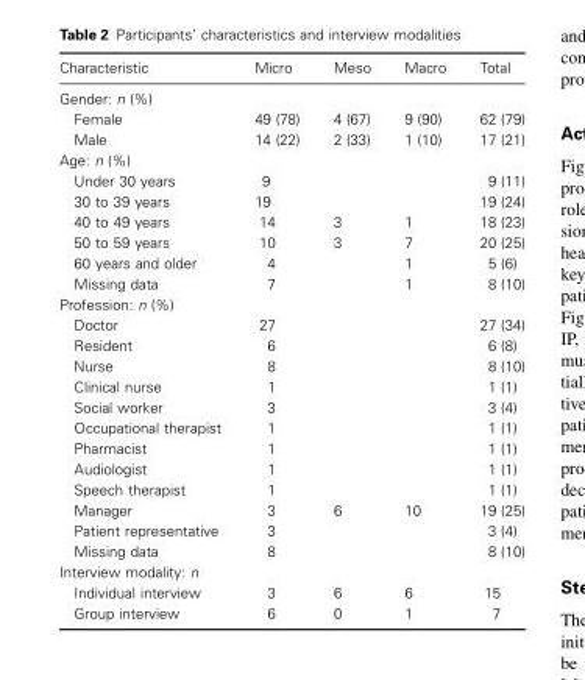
<table><thead><tr><td>Characteristic</td><td>Micro</td><td>Meso</td><td>Macro</td><td>Total</td></tr></thead><tbody><tr><td colspan="5">Gender: n (%)</td></tr><tr><td>Female</td><td>49 (78)</td><td>4 (67)</td><td>9 (90)</td><td>62 (79)</td></tr><tr><td>Male</td><td>14 (22)</td><td>2 (33)</td><td>1 (10)</td><td>17 (21)</td></tr><tr><td colspan="5">Age: n (%)</td></tr><tr><td>Under 30 years</td><td>9</td><td></td><td></td><td>9 (11)</td></tr><tr><td>30 to 39 years</td><td>19</td><td></td><td></td><td>19 (24)</td></tr><tr><td>40 to 49 years</td><td>14</td><td>3</td><td>1</td><td>18 (23)</td></tr><tr><td>50 to 59 years</td><td>10</td><td>3</td><td>7</td><td>20 (25)</td></tr><tr><td>60 years and older</td><td>4</td><td></td><td>1</td><td>5 (6)</td></tr><tr><td>Missing data</td><td>7</td><td></td><td>1</td><td>8 (10)</td></tr><tr><td colspan="5">Profession: n (%)</td></tr><tr><td>Doctor</td><td>27</td><td></td><td></td><td>27 (34)</td></tr><tr><td>Resident</td><td>6</td><td></td><td></td><td>6 (8)</td></tr><tr><td>Nurse</td><td>8</td><td></td><td></td><td>8 (10)</td></tr><tr><td>Clinical nurse</td><td>1</td><td></td><td></td><td>1 (1)</td></tr><tr><td>Social worker</td><td>3</td><td></td><td></td><td>3 (4)</td></tr><tr><td>Occupational therapist</td><td>1</td><td></td><td></td><td>1 (1)</td></tr><tr><td>Pharmacist</td><td>1</td><td></td><td></td><td>1 (1)</td></tr><tr><td>Audiologist</td><td>1</td><td></td><td></td><td>1 (1)</td></tr><tr><td>Speech therapist</td><td>1</td><td></td><td></td><td>1 (1)</td></tr><tr><td>Manager</td><td>3</td><td>6</td><td>10</td><td>19 (25)</td></tr><tr><td>Patient representative</td><td>3</td><td></td><td></td><td>3 (4)</td></tr><tr><td>Missing data</td><td>8</td><td></td><td></td><td>8 (10)</td></tr><tr><td colspan="5">Interview modality: n</td></tr><tr><td>Individual interview</td><td>3</td><td>6</td><td>6</td><td>15</td></tr><tr><td>Group interview</td><td>6</td><td>0</td><td>1</td><td>7</td></tr></tbody></table>